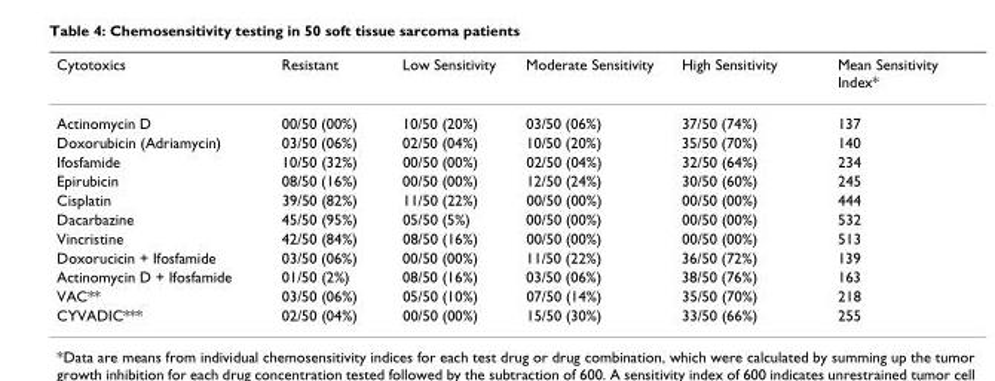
<table><thead><tr><td>Cytotoxics</td><td>Resistant</td><td>Low Sensitivity</td><td>Moderate Sensitivity</td><td>High Sensitivity</td><td>Mean Sensitivity Index*</td></tr></thead><tbody><tr><td>Actinomycin D</td><td>00/50 (00%)</td><td>10/50 (20%)</td><td>03/50 (06%)</td><td>37/50 (74%)</td><td>137</td></tr><tr><td>Doxorubicin (Adriamycin)</td><td>03/50 (06%)</td><td>02/50 (04%)</td><td>10/50 (20%)</td><td>35/50 (70%)</td><td>140</td></tr><tr><td>Ifosfamide</td><td>10/50 (32%)</td><td>00/50 (00%)</td><td>02/50 (04%)</td><td>32/50 (64%)</td><td>234</td></tr><tr><td>Epirubicin</td><td>08/50 (16%)</td><td>00/50 (00%)</td><td>12/50 (24%)</td><td>30/50 (60%)</td><td>245</td></tr><tr><td>Cisplatin</td><td>39/50 (82%)</td><td>11/50 (22%)</td><td>00/50 (00%)</td><td>00/50 (00%)</td><td>444</td></tr><tr><td>Dacarbazine</td><td>45/50 (95%)</td><td>05/50 (5%)</td><td>00/50 (00%)</td><td>00/50 (00%)</td><td>532</td></tr><tr><td>Vincristine</td><td>42/50 (84%)</td><td>08/50 (16%)</td><td>00/50 (00%)</td><td>00/50 (00%)</td><td>513</td></tr><tr><td>Doxorucicin + Ifosfamide</td><td>03/50 (06%)</td><td>00/50 (00%)</td><td>11/50 (22%)</td><td>36/50 (72%)</td><td>139</td></tr><tr><td>Actinomycin D + Ifosfamide</td><td>01/50 (2%)</td><td>08/50 (16%)</td><td>03/50 (06%)</td><td>38/50 (76%)</td><td>163</td></tr><tr><td>VAC**</td><td>03/50 (06%)</td><td>05/50 (10%)</td><td>07/50 (14%)</td><td>35/50 (70%)</td><td>218</td></tr><tr><td>CYVADIC***</td><td>02/50 (04%)</td><td>00/50 (00%)</td><td>15/50 (30%)</td><td>33/50 (66%)</td><td>255</td></tr></tbody></table>